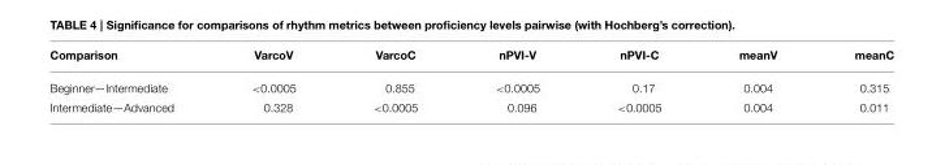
<table><thead><tr><td>Comparison</td><td>VarcoV</td><td>VarcoC</td><td>nPVI-V</td><td>nPVI-C</td><td>meanV</td><td>meanC</td></tr></thead><tbody><tr><td>Beginner—Intermediate</td><td>&lt;0.0005</td><td>0.855</td><td>&lt;0.0005</td><td>0.17</td><td>0.004</td><td>0.315</td></tr><tr><td>Intermediate—Advanced</td><td>0.328</td><td>&lt;0.0005</td><td>0.096</td><td>&lt;0.0005</td><td>0.004</td><td>0.011</td></tr></tbody></table>